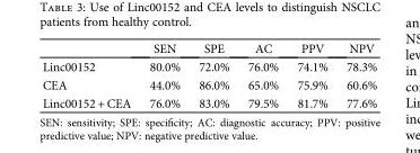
<table><thead><tr><td></td><td>SEN</td><td>SPE</td><td>AC</td><td>PPV</td><td>NPV</td></tr></thead><tbody><tr><td>Linc00152</td><td>80.0%</td><td>72.0%</td><td>76.0%</td><td>74.1%</td><td>78.3%</td></tr><tr><td>CEA</td><td>44.0%</td><td>86.0%</td><td>65.0%</td><td>75.9%</td><td>60.6%</td></tr><tr><td>Linc00152 + CEA</td><td>76.0%</td><td>83.0%</td><td>79.5%</td><td>81.7%</td><td>77.6%</td></tr></tbody></table>